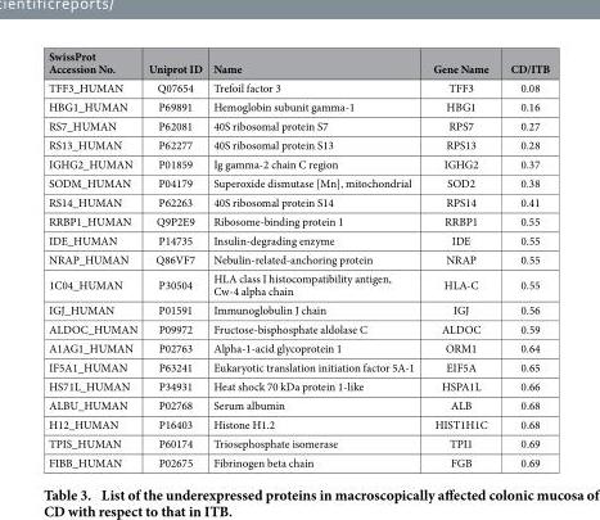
<table><thead><tr><td>SwissProt Accession No.</td><td>Uniprot ID</td><td>Name</td><td>Gene Name</td><td>CD/ITB</td></tr></thead><tbody><tr><td>TFF3_HUMAN</td><td>Q07654</td><td>Trefoil factor 3</td><td>TFF3</td><td>0.08</td></tr><tr><td>HBG1_HUMAN</td><td>P69891</td><td>Hemoglobin subunit gamma-1</td><td>HBG1</td><td>0.16</td></tr><tr><td>RS7_HUMAN</td><td>P62081</td><td>40S ribosomal protein S7</td><td>RPS7</td><td>0.27</td></tr><tr><td>RS13_HUMAN</td><td>P62277</td><td>40S ribosomal protein S13</td><td>RPS13</td><td>0.28</td></tr><tr><td>IGHG2_HUMAN</td><td>P01859</td><td>Ig gamma-2 chain C region</td><td>IGHG2</td><td>0.37</td></tr><tr><td>SODM_HUMAN</td><td>P04179</td><td>Superoxide dismutase [Mn], mitochondrial</td><td>SOD2</td><td>0.38</td></tr><tr><td>RS14_HUMAN</td><td>P62263</td><td>40S ribosomal protein S14</td><td>RPS14</td><td>0.41</td></tr><tr><td>RRBP1_HUMAN</td><td>Q9P2E9</td><td>Ribosome-binding protein 1</td><td>RRBP1</td><td>0.55</td></tr><tr><td>IDE_HUMAN</td><td>P14735</td><td>Insulin-degrading enzyme</td><td>IDE</td><td>0.55</td></tr><tr><td>NRAP_HUMAN</td><td>Q86VF7</td><td>Nebulin-related-anchoring protein</td><td>NRAP</td><td>0.55</td></tr><tr><td>1C04_HUMAN</td><td>P30504</td><td>HLA class I histocompatibility antigen, Cw-4 alpha chain</td><td>HLA-C</td><td>0.55</td></tr><tr><td>IGJ_HUMAN</td><td>P01591</td><td>Immunoglobulin J chain</td><td>IGJ</td><td>0.56</td></tr><tr><td>ALDOC_HUMAN</td><td>P09972</td><td>Fructose-bisphosphate aldolase C</td><td>ALDOC</td><td>0.59</td></tr><tr><td>A1AG1_HUMAN</td><td>P02763</td><td>Alpha-1-acid glycoprotein 1</td><td>ORM1</td><td>0.64</td></tr><tr><td>IF5A1_HUMAN</td><td>P63241</td><td>Eukaryotic translation initiation factor 5A-1</td><td>EIF5A</td><td>0.65</td></tr><tr><td>HS71L_HUMAN</td><td>P34931</td><td>Heat shock 70 kDa protein 1-like</td><td>HSPA1L</td><td>0.66</td></tr><tr><td>ALBU_HUMAN</td><td>P02768</td><td>Serum albumin</td><td>ALB</td><td>0.68</td></tr><tr><td>H12_HUMAN</td><td>P16403</td><td>Histone H1.2</td><td>HIST1H1C</td><td>0.68</td></tr><tr><td>TPIS_HUMAN</td><td>P60174</td><td>Triosephosphate isomerase</td><td>TPI1</td><td>0.69</td></tr><tr><td>FIBB_HUMAN</td><td>P02675</td><td>Fibrinogen beta chain</td><td>FGB</td><td>0.69</td></tr></tbody></table>